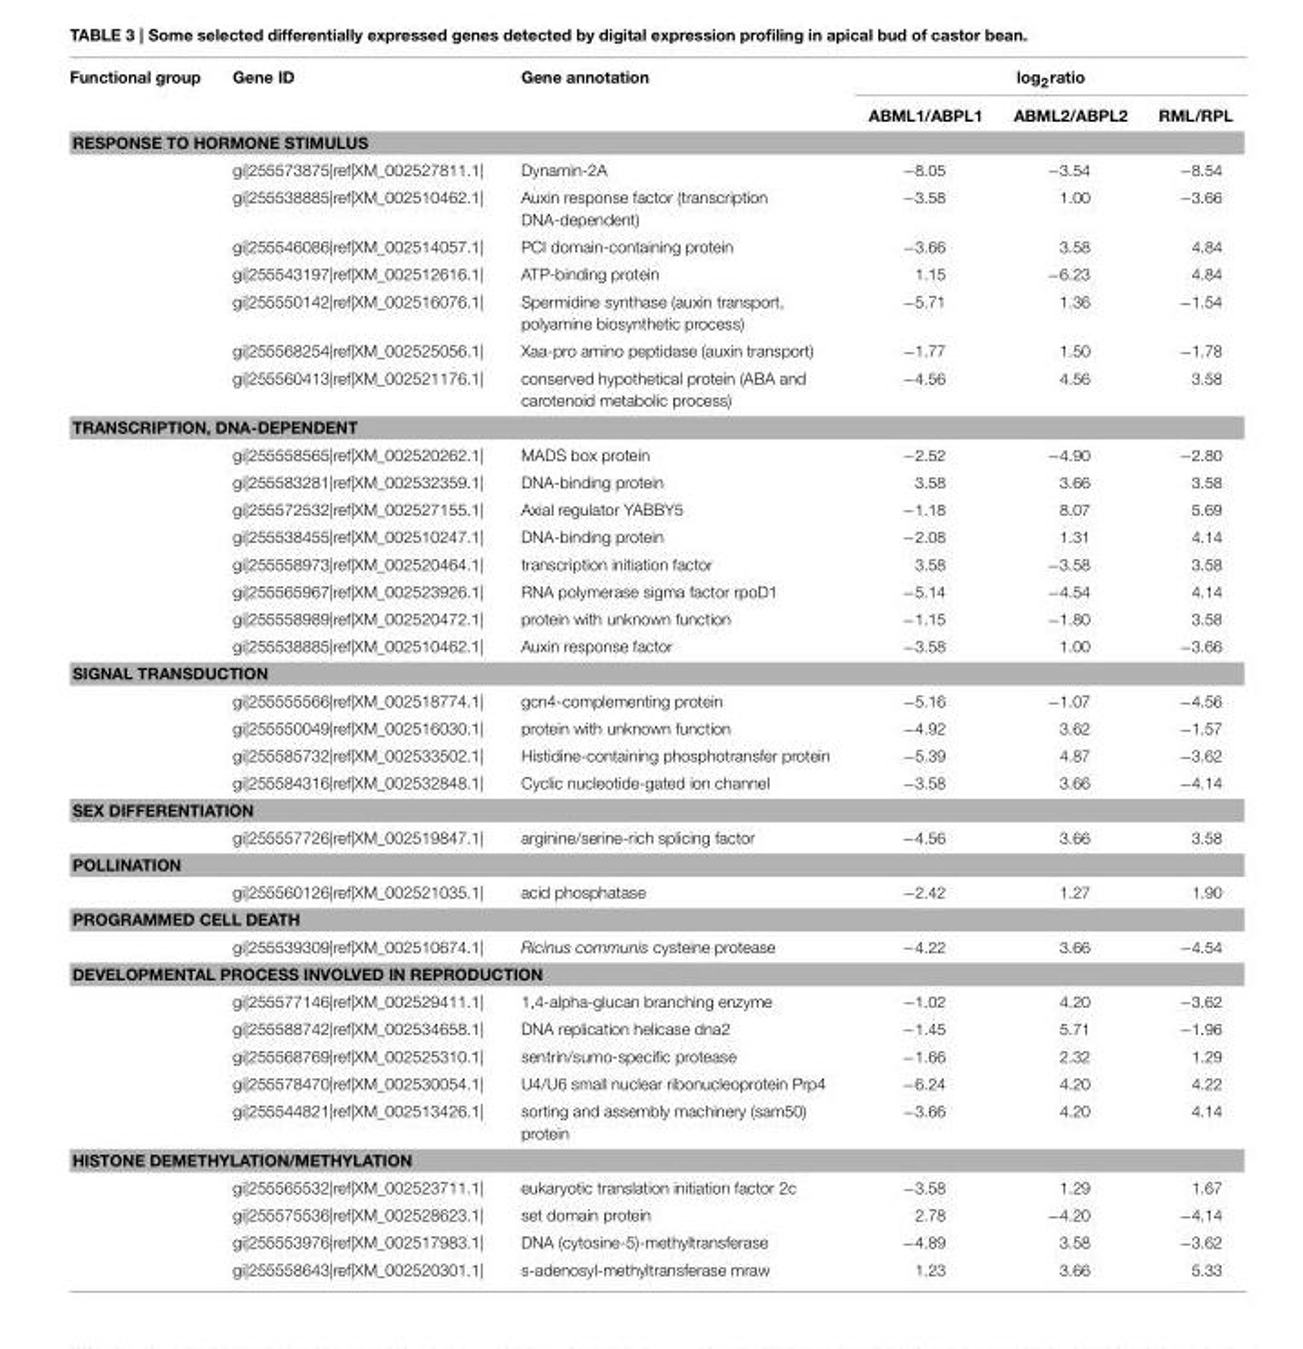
<table><thead><tr><td rowspan="2">Functional group</td><td rowspan="2">Gene ID</td><td rowspan="2">Gene annotation</td><td colspan="3">log<sub>2</sub>ratio</td></tr><tr><td>ABML1/ABPL1</td><td>ABML2/ABPL2</td><td>RML/RPL</td></tr></thead><tbody><tr><td colspan="6">RESPONSE TO HORMONE STIMULUS</td></tr><tr><td></td><td>gi|255573875|ref|XM_002527811.1|</td><td>Dynamin-2A</td><td>−8.05</td><td>−3.54</td><td>−8.54</td></tr><tr><td></td><td>gi|255538885|ref|XM_002510462.1|</td><td>Auxin response factor (transcription DNA-dependent)</td><td>−3.58</td><td>1.00</td><td>−3.66</td></tr><tr><td></td><td>gi|255546086|ref|XM_002514057.1|</td><td>PCI domain-containing protein</td><td>−3.66</td><td>3.58</td><td>4.84</td></tr><tr><td></td><td>gi|255543197|ref|XM_002512616.1|</td><td>ATP-binding protein</td><td>1.15</td><td>−6.23</td><td>4.84</td></tr><tr><td></td><td>gi|255550142|ref|XM_002516076.1|</td><td>Spermidine synthase (auxin transport, polyamine biosynthetic process)</td><td>−5.71</td><td>1.36</td><td>−1.54</td></tr><tr><td></td><td>gi|255568254|ref|XM_002525056.1|</td><td>Xaa-pro amino peptidase (auxin transport)</td><td>−1.77</td><td>1.50</td><td>−1.78</td></tr><tr><td></td><td>gi|255560413|ref|XM_002521176.1|</td><td>conserved hypothetical protein (ABA and carotenoid metabolic process)</td><td>−4.56</td><td>4.56</td><td>3.58</td></tr><tr><td colspan="6">TRANSCRIPTION, DNA-DEPENDENT</td></tr><tr><td></td><td>gi|255558565|ref|XM_002520262.1|</td><td>MADS box protein</td><td>−2.52</td><td>−4.90</td><td>−2.80</td></tr><tr><td></td><td>gi|255583281|ref|XM_002532359.1|</td><td>DNA-binding protein</td><td>3.58</td><td>3.66</td><td>3.58</td></tr><tr><td></td><td>gi|255572532|ref|XM_002527155.1|</td><td>Axial regulator YABBY5</td><td>−1.18</td><td>8.07</td><td>5.69</td></tr><tr><td></td><td>gi|255538455|ref|XM_002510247.1|</td><td>DNA-binding protein</td><td>−2.08</td><td>1.31</td><td>4.14</td></tr><tr><td></td><td>gi|255558973|ref|XM_002520464.1|</td><td>transcription initiation factor</td><td>3.58</td><td>−3.58</td><td>3.58</td></tr><tr><td></td><td>gi|255565967|ref|XM_002523926.1|</td><td>RNA polymerase sigma factor rpoD1</td><td>−5.14</td><td>−4.54</td><td>4.14</td></tr><tr><td></td><td>gi|255558989|ref|XM_002520472.1|</td><td>protein with unknown function</td><td>−1.15</td><td>−1.80</td><td>3.58</td></tr><tr><td></td><td>gi|255538885|ref|XM_002510462.1|</td><td>Auxin response factor</td><td>−3.58</td><td>1.00</td><td>−3.66</td></tr><tr><td colspan="6">SIGNAL TRANSDUCTION</td></tr><tr><td></td><td>gi|255555566|ref|XM_002518774.1|</td><td>gcn4-complementing protein</td><td>−5.16</td><td>−1.07</td><td>−4.56</td></tr><tr><td></td><td>gi|255550049|ref|XM_002516030.1|</td><td>protein with unknown function</td><td>−4.92</td><td>3.62</td><td>−1.57</td></tr><tr><td></td><td>gi|255585732|ref|XM_002533502.1|</td><td>Histidine-containing phosphotransfer protein</td><td>−5.39</td><td>4.87</td><td>−3.62</td></tr><tr><td></td><td>gi|255584316|ref|XM_002532848.1|</td><td>Cyclic nucleotide-gated ion channel</td><td>−3.58</td><td>3.66</td><td>−4.14</td></tr><tr><td colspan="6">SEX DIFFERENTIATION</td></tr><tr><td></td><td>gi|255557726|ref|XM_002519847.1|</td><td>arginine/serine-rich splicing factor</td><td>−4.56</td><td>3.66</td><td>3.58</td></tr><tr><td colspan="6">POLLINATION</td></tr><tr><td></td><td>gi|255560126|ref|XM_002521035.1|</td><td>acid phosphatase</td><td>−2.42</td><td>1.27</td><td>1.90</td></tr><tr><td colspan="6">PROGRAMMED CELL DEATH</td></tr><tr><td></td><td>gi|255539309|ref|XM_002510674.1|</td><td>Ricinus communis cysteine protease</td><td>−4.22</td><td>3.66</td><td>−4.54</td></tr><tr><td colspan="6">DEVELOPMENTAL PROCESS INVOLVED IN REPRODUCTION</td></tr><tr><td></td><td>gi|255577146|ref|XM_002529411.1|</td><td>1,4-alpha-glucan branching enzyme</td><td>−1.02</td><td>4.20</td><td>−3.62</td></tr><tr><td></td><td>gi|255588742|ref|XM_002534658.1|</td><td>DNA replication helicase dna2</td><td>−1.45</td><td>5.71</td><td>−1.96</td></tr><tr><td></td><td>gi|255568769|ref|XM_002525310.1|</td><td>sentrin/sumo-specific protease</td><td>−1.66</td><td>2.32</td><td>1.29</td></tr><tr><td></td><td>gi|255578470|ref|XM_002530054.1|</td><td>U4/U6 small nuclear ribonucleoprotein Prp4</td><td>−6.24</td><td>4.20</td><td>4.22</td></tr><tr><td></td><td>gi|255544821|ref|XM_002513426.1|</td><td>sorting and assembly machinery (sam50) protein</td><td>−3.66</td><td>4.20</td><td>4.14</td></tr><tr><td colspan="6">HISTONE DEMETHYLATION/METHYLATION</td></tr><tr><td></td><td>gi|255565532|ref|XM_002523711.1|</td><td>eukaryotic translation initiation factor 2c</td><td>−3.58</td><td>1.29</td><td>1.67</td></tr><tr><td></td><td>gi|255575536|ref|XM_002528623.1|</td><td>set domain protein</td><td>2.78</td><td>−4.20</td><td>−4.14</td></tr><tr><td></td><td>gi|255553976|ref|XM_002517983.1|</td><td>DNA (cytosine-5)-methyltransferase</td><td>−4.89</td><td>3.58</td><td>−3.62</td></tr><tr><td></td><td>gi|255558643|ref|XM_002520301.1|</td><td>s-adenosyl-methyltransferase mraw</td><td>1.23</td><td>3.66</td><td>5.33</td></tr></tbody></table>